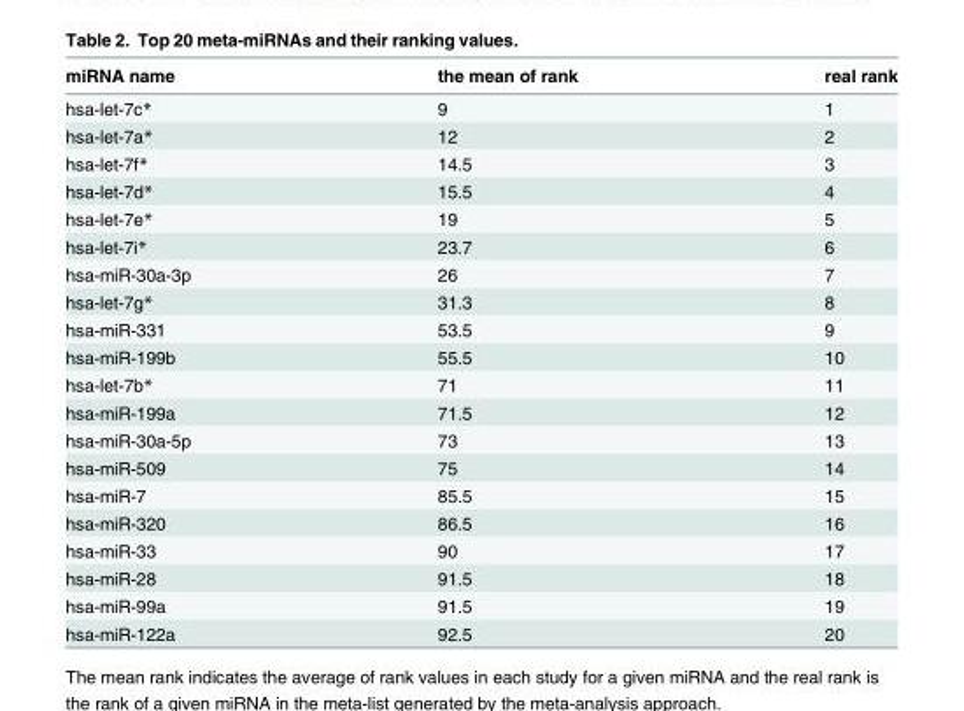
<table><thead><tr><td>miRNA name</td><td>the mean of rank</td><td>real rank</td></tr></thead><tbody><tr><td>hsa-let-7c*</td><td>9</td><td>1</td></tr><tr><td>hsa-let-7a*</td><td>12</td><td>2</td></tr><tr><td>hsa-let-7f*</td><td>14.5</td><td>3</td></tr><tr><td>hsa-let-7d*</td><td>15.5</td><td>4</td></tr><tr><td>hsa-let-7e*</td><td>19</td><td>5</td></tr><tr><td>hsa-let-7i*</td><td>23.7</td><td>6</td></tr><tr><td>hsa-miR-30a-3p</td><td>26</td><td>7</td></tr><tr><td>hsa-let-7g*</td><td>31.3</td><td>8</td></tr><tr><td>hsa-miR-331</td><td>53.5</td><td>9</td></tr><tr><td>hsa-miR-199b</td><td>55.5</td><td>10</td></tr><tr><td>hsa-let-7b*</td><td>71</td><td>11</td></tr><tr><td>hsa-miR-199a</td><td>71.5</td><td>12</td></tr><tr><td>hsa-miR-30a-5p</td><td>73</td><td>13</td></tr><tr><td>hsa-miR-509</td><td>75</td><td>14</td></tr><tr><td>hsa-miR-7</td><td>85.5</td><td>15</td></tr><tr><td>hsa-miR-320</td><td>86.5</td><td>16</td></tr><tr><td>hsa-miR-33</td><td>90</td><td>17</td></tr><tr><td>hsa-miR-28</td><td>91.5</td><td>18</td></tr><tr><td>hsa-miR-99a</td><td>91.5</td><td>19</td></tr><tr><td>hsa-miR-122a</td><td>92.5</td><td>20</td></tr></tbody></table>